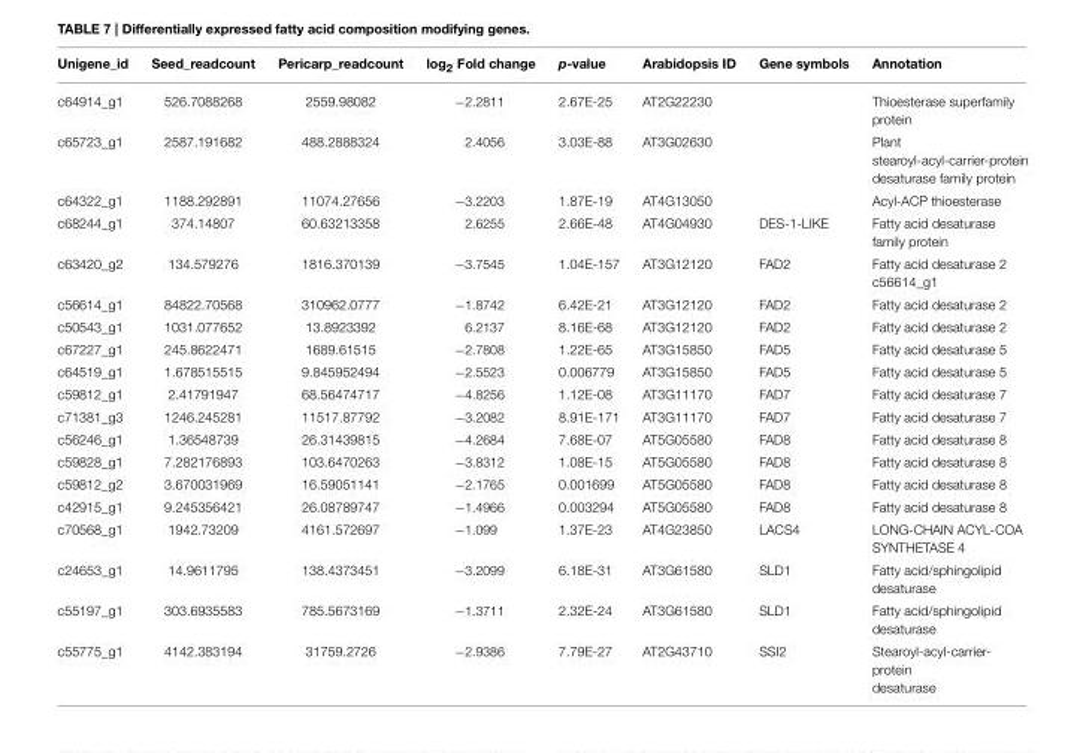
<table><thead><tr><td>Unigene_id</td><td>Seed_readcount</td><td>Pericarp_readcount</td><td>log<sub>2</sub> Fold change</td><td>p-value</td><td>Arabidopsis ID</td><td>Gene symbols</td><td>Annotation</td></tr></thead><tbody><tr><td>c64914_g1</td><td>526.7088268</td><td>2559.98082</td><td>−2.2811</td><td>2.67E-25</td><td>AT2G22230</td><td></td><td>Thioesterase superfamily protein</td></tr><tr><td>c65723_g1</td><td>2587.191682</td><td>488.2888324</td><td>2.4056</td><td>3.03E-88</td><td>AT3G02630</td><td></td><td>Plant stearoyl-acyl-carrier-protein desaturase family protein</td></tr><tr><td>c64322_g1</td><td>1188.292891</td><td>11074.27656</td><td>−3.2203</td><td>1.87E-19</td><td>AT4G13050</td><td></td><td>Acyl-ACP thioesterase</td></tr><tr><td>c68244_g1</td><td>374.14807</td><td>60.63213358</td><td>2.6255</td><td>2.66E-48</td><td>AT4G04930</td><td>DES-1-LIKE</td><td>Fatty acid desaturase family protein</td></tr><tr><td>c63420_g2</td><td>134.579276</td><td>1816.370139</td><td>−3.7545</td><td>1.04E-157</td><td>AT3G12120</td><td>FAD2</td><td>Fatty acid desaturase 2 c56614_g1</td></tr><tr><td>c56614_g1</td><td>84822.70568</td><td>310962.0777</td><td>−1.8742</td><td>6.42E-21</td><td>AT3G12120</td><td>FAD2</td><td>Fatty acid desaturase 2</td></tr><tr><td>c50543_g1</td><td>1031.077652</td><td>13.8923392</td><td>6.2137</td><td>8.16E-68</td><td>AT3G12120</td><td>FAD2</td><td>Fatty acid desaturase 2</td></tr><tr><td>c67227_g1</td><td>245.8622471</td><td>1689.61515</td><td>−2.7808</td><td>1.22E-65</td><td>AT3G15850</td><td>FAD5</td><td>Fatty acid desaturase 5</td></tr><tr><td>c64519_g1</td><td>1.678515515</td><td>9.845952494</td><td>−2.5523</td><td>0.006779</td><td>AT3G15850</td><td>FAD5</td><td>Fatty acid desaturase 5</td></tr><tr><td>c59812_g1</td><td>2.41791947</td><td>68.56474717</td><td>−4.8256</td><td>1.12E-08</td><td>AT3G11170</td><td>FAD7</td><td>Fatty acid desaturase 7</td></tr><tr><td>c71381_g3</td><td>1246.245281</td><td>11517.87792</td><td>−3.2082</td><td>8.91E-171</td><td>AT3G11170</td><td>FAD7</td><td>Fatty acid desaturase 7</td></tr><tr><td>c56246_g1</td><td>1.36548739</td><td>26.31439815</td><td>−4.2684</td><td>7.68E-07</td><td>AT5G05580</td><td>FAD8</td><td>Fatty acid desaturase 8</td></tr><tr><td>c59828_g1</td><td>7.282176893</td><td>103.6470263</td><td>−3.8312</td><td>1.08E-15</td><td>AT5G05580</td><td>FAD8</td><td>Fatty acid desaturase 8</td></tr><tr><td>c59812_g2</td><td>3.670031969</td><td>16.59051141</td><td>−2.1765</td><td>0.001699</td><td>AT5G05580</td><td>FAD8</td><td>Fatty acid desaturase 8</td></tr><tr><td>c42915_g1</td><td>9.245356421</td><td>26.08789747</td><td>−1.4966</td><td>0.003294</td><td>AT5G05580</td><td>FAD8</td><td>Fatty acid desaturase 8</td></tr><tr><td>c70568_g1</td><td>1942.73209</td><td>4161.572697</td><td>−1.099</td><td>1.37E-23</td><td>AT4G23850</td><td>LACS4</td><td>LONG-CHAIN ACYL-COA SYNTHETASE 4</td></tr><tr><td>c24653_g1</td><td>14.9611795</td><td>138.4373451</td><td>−3.2099</td><td>6.18E-31</td><td>AT3G61580</td><td>SLD1</td><td>Fatty acid/sphingolipid desaturase</td></tr><tr><td>c55197_g1</td><td>303.6935583</td><td>785.5673169</td><td>−1.3711</td><td>2.32E-24</td><td>AT3G61580</td><td>SLD1</td><td>Fatty acid/sphingolipid desaturase</td></tr><tr><td>c55775_g1</td><td>4142.383194</td><td>31759.2726</td><td>−2.9386</td><td>7.79E-27</td><td>AT2G43710</td><td>SSI2</td><td>Stearoyl-acyl-carrier- protein desaturase</td></tr></tbody></table>